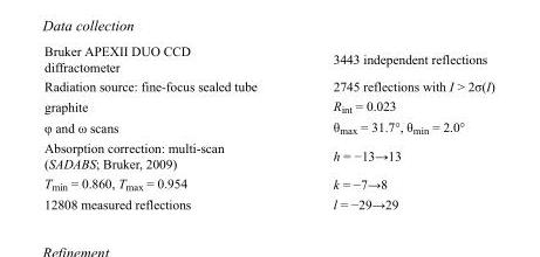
<table><tbody><tr><td>Bruker APEXII DUO CCD diffractometer</td><td>3443 independent reflections</td></tr><tr><td>Radiation source: fine-focus sealed tube</td><td>2745 reflections with I &gt; 2σ(I)</td></tr><tr><td>graphite</td><td>R<sub>int</sub> = 0.023</td></tr><tr><td>φ and ω scans</td><td>θ<sub>max</sub> = 31.7°, θ<sub>min</sub> = 2.0°</td></tr><tr><td>Absorption correction: multi-scan (SADABS; Bruker, 2009)</td><td>h = −13→13</td></tr><tr><td>T<sub>min</sub> = 0.860, T<sub>max</sub> = 0.954</td><td>k = −7→8</td></tr><tr><td>12808 measured reflections</td><td>l = −29→29</td></tr></tbody></table>